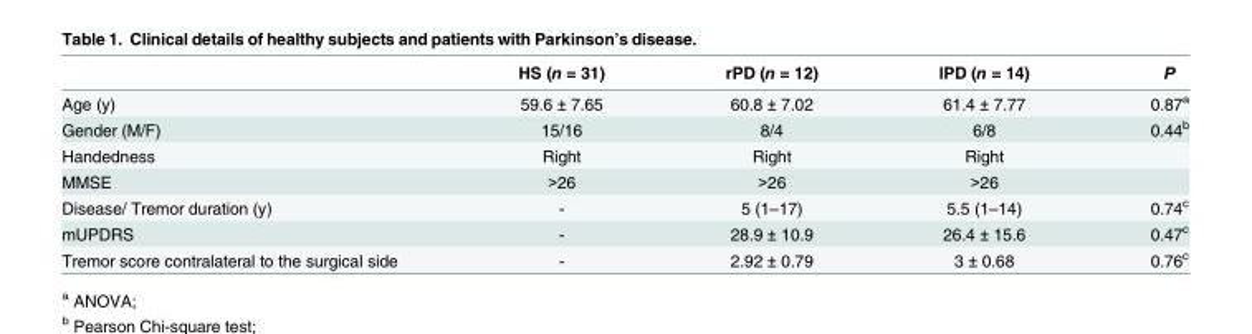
<table><thead><tr><td></td><td>HS (n = 31)</td><td>rPD (n = 12)</td><td>lPD (n = 14)</td><td>P</td></tr></thead><tbody><tr><td>Age (y)</td><td>59.6 ± 7.65</td><td>60.8 ± 7.02</td><td>61.4 ± 7.77</td><td>0.87<sup>a</sup></td></tr><tr><td>Gender (M/F)</td><td>15/16</td><td>8/4</td><td>6/8</td><td>0.44<sup>b</sup></td></tr><tr><td>Handedness</td><td>Right</td><td>Right</td><td>Right</td><td></td></tr><tr><td>MMSE</td><td>&gt;26</td><td>&gt;26</td><td>&gt;26</td><td></td></tr><tr><td>Disease/ Tremor duration (y)</td><td>-</td><td>5 (1–17)</td><td>5.5 (1–14)</td><td>0.74<sup>c</sup></td></tr><tr><td>mUPDRS</td><td>-</td><td>28.9 ± 10.9</td><td>26.4 ± 15.6</td><td>0.47<sup>c</sup></td></tr><tr><td>Tremor score contralateral to the surgical side</td><td>-</td><td>2.92 ± 0.79</td><td>3 ± 0.68</td><td>0.76<sup>c</sup></td></tr></tbody></table>